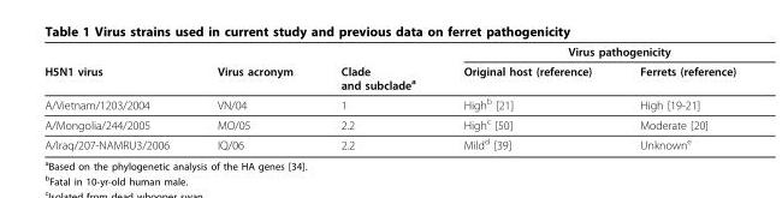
<table><thead><tr><td rowspan="2">H5N1 virus</td><td rowspan="2">Virus acronym</td><td rowspan="2">Clade and subclade<sup>a</sup></td><td colspan="2">Virus pathogenicity</td></tr><tr><td>Original host (reference)</td><td>Ferrets (reference)</td></tr></thead><tbody><tr><td>A/Vietnam/1203/2004</td><td>VN/04</td><td>1</td><td>High<sup>b</sup> [21]</td><td>High [19-21]</td></tr><tr><td>A/Mongolia/244/2005</td><td>MO/05</td><td>2.2</td><td>High<sup>c</sup> [50]</td><td>Moderate [20]</td></tr><tr><td>A/Iraq/207-NAMRU3/2006</td><td>IQ/06</td><td>2.2</td><td>Mild<sup>d</sup> [39]</td><td>Unknown<sup>e</sup></td></tr></tbody></table>